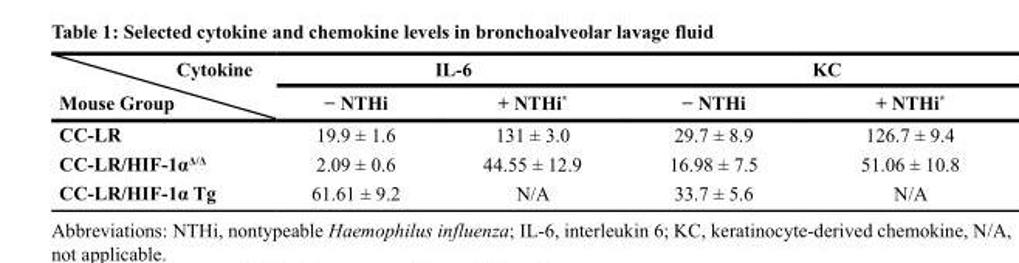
<table><thead><tr><td rowspan="2">Cytokine Mouse Group</td><td colspan="2">IL-6</td><td colspan="2">KC</td></tr><tr><td>− NTHi</td><td>+ NTHi*</td><td>− NTHi</td><td>+ NTHi*</td></tr></thead><tbody><tr><td>CC-LR</td><td>19.9 ± 1.6</td><td>131 ± 3.0</td><td>29.7 ± 8.9</td><td>126.7 ± 9.4</td></tr><tr><td>CC-LR/HIF-1α<sup>Δ/Δ</sup></td><td>2.09 ± 0.6</td><td>44.55 ± 12.9</td><td>16.98 ± 7.5</td><td>51.06 ± 10.8</td></tr><tr><td>CC-LR/HIF-1α Tg</td><td>61.61 ± 9.2</td><td>N/A</td><td>33.7 ± 5.6</td><td>N/A</td></tr></tbody></table>